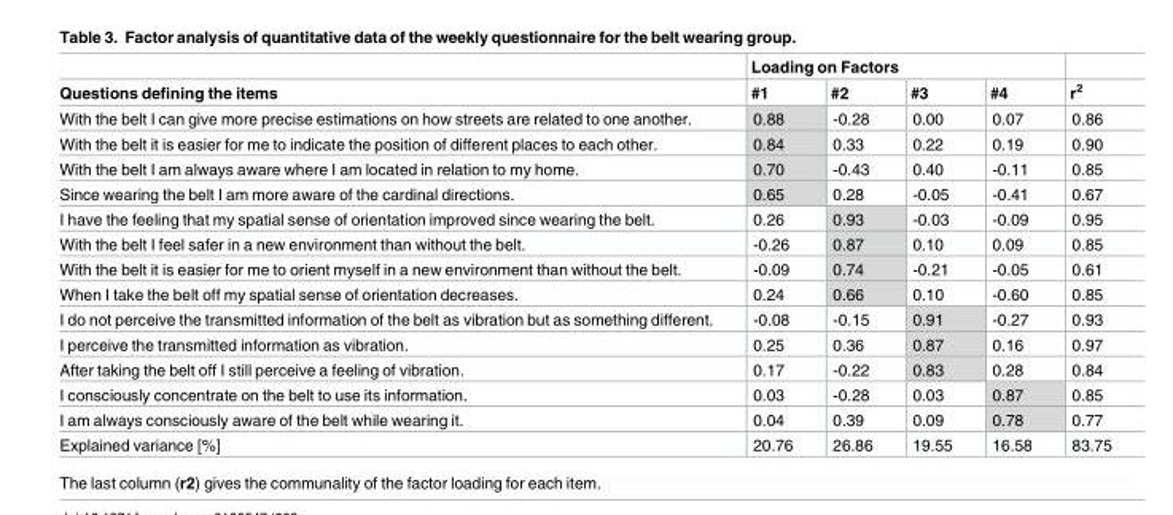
<table><thead><tr><td rowspan="2">Questions defining the items</td><td colspan="4">Loading on Factors</td><td rowspan="2">r<sup>2</sup></td></tr><tr><td>#1</td><td>#2</td><td>#3</td><td>#4</td></tr></thead><tbody><tr><td>With the belt I can give more precise estimations on how streets are related to one another.</td><td>0.88</td><td>-0.28</td><td>0.00</td><td>0.07</td><td>0.86</td></tr><tr><td>With the belt it is easier for me to indicate the position of different places to each other.</td><td>0.84</td><td>0.33</td><td>0.22</td><td>0.19</td><td>0.90</td></tr><tr><td>With the belt I am always aware where I am located in relation to my home.</td><td>0.70</td><td>-0.43</td><td>0.40</td><td>-0.11</td><td>0.85</td></tr><tr><td>Since wearing the belt I am more aware of the cardinal directions.</td><td>0.65</td><td>0.28</td><td>-0.05</td><td>-0.41</td><td>0.67</td></tr><tr><td>I have the feeling that my spatial sense of orientation improved since wearing the belt.</td><td>0.26</td><td>0.93</td><td>-0.03</td><td>-0.09</td><td>0.95</td></tr><tr><td>With the belt I feel safer in a new environment than without the belt.</td><td>-0.26</td><td>0.87</td><td>0.10</td><td>0.09</td><td>0.85</td></tr><tr><td>With the belt it is easier for me to orient myself in a new environment than without the belt.</td><td>-0.09</td><td>0.74</td><td>-0.21</td><td>-0.05</td><td>0.61</td></tr><tr><td>When I take the belt off my spatial sense of orientation decreases.</td><td>0.24</td><td>0.66</td><td>0.10</td><td>-0.60</td><td>0.85</td></tr><tr><td>I do not perceive the transmitted information of the belt as vibration but as something different.</td><td>-0.08</td><td>-0.15</td><td>0.91</td><td>-0.27</td><td>0.93</td></tr><tr><td>I perceive the transmitted information as vibration.</td><td>0.25</td><td>0.36</td><td>0.87</td><td>0.16</td><td>0.97</td></tr><tr><td>After taking the belt off I still perceive a feeling of vibration.</td><td>0.17</td><td>-0.22</td><td>0.83</td><td>0.28</td><td>0.84</td></tr><tr><td>I consciously concentrate on the belt to use its information.</td><td>0.03</td><td>-0.28</td><td>0.03</td><td>0.87</td><td>0.85</td></tr><tr><td>I am always consciously aware of the belt while wearing it.</td><td>0.04</td><td>0.39</td><td>0.09</td><td>0.78</td><td>0.77</td></tr><tr><td>Explained variance [%]</td><td>20.76</td><td>26.86</td><td>19.55</td><td>16.58</td><td>83.75</td></tr></tbody></table>